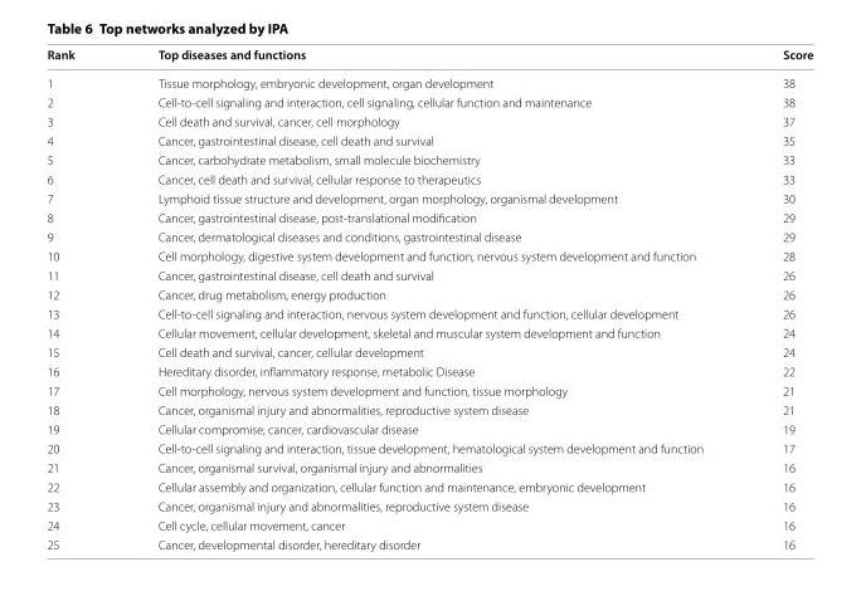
<table><thead><tr><td>Rank</td><td>Top diseases and functions</td><td>Score</td></tr></thead><tbody><tr><td>1</td><td>Tissue morphology, embryonic development, organ development</td><td>38</td></tr><tr><td>2</td><td>Cell‑to‑cell signaling and interaction, cell signaling, cellular function and maintenance</td><td>38</td></tr><tr><td>3</td><td>Cell death and survival, cancer, cell morphology</td><td>37</td></tr><tr><td>4</td><td>Cancer, gastrointestinal disease, cell death and survival</td><td>35</td></tr><tr><td>5</td><td>Cancer, carbohydrate metabolism, small molecule biochemistry</td><td>33</td></tr><tr><td>6</td><td>Cancer, cell death and survival, cellular response to therapeutics</td><td>33</td></tr><tr><td>7</td><td>Lymphoid tissue structure and development, organ morphology, organismal development</td><td>30</td></tr><tr><td>8</td><td>Cancer, gastrointestinal disease, post‑translational modification</td><td>29</td></tr><tr><td>9</td><td>Cancer, dermatological diseases and conditions, gastrointestinal disease</td><td>29</td></tr><tr><td>10</td><td>Cell morphology, digestive system development and function, nervous system development and function</td><td>28</td></tr><tr><td>11</td><td>Cancer, gastrointestinal disease, cell death and survival</td><td>26</td></tr><tr><td>12</td><td>Cancer, drug metabolism, energy production</td><td>26</td></tr><tr><td>13</td><td>Cell‑to‑cell signaling and interaction, nervous system development and function, cellular development</td><td>26</td></tr><tr><td>14</td><td>Cellular movement, cellular development, skeletal and muscular system development and function</td><td>24</td></tr><tr><td>15</td><td>Cell death and survival, cancer, cellular development</td><td>24</td></tr><tr><td>16</td><td>Hereditary disorder, inflammatory response, metabolic Disease</td><td>22</td></tr><tr><td>17</td><td>Cell morphology, nervous system development and function, tissue morphology</td><td>21</td></tr><tr><td>18</td><td>Cancer, organismal injury and abnormalities, reproductive system disease</td><td>21</td></tr><tr><td>19</td><td>Cellular compromise, cancer, cardiovascular disease</td><td>19</td></tr><tr><td>20</td><td>Cell‑to‑cell signaling and interaction, tissue development, hematological system development and function</td><td>17</td></tr><tr><td>21</td><td>Cancer, organismal survival, organismal injury and abnormalities</td><td>16</td></tr><tr><td>22</td><td>Cellular assembly and organization, cellular function and maintenance, embryonic development</td><td>16</td></tr><tr><td>23</td><td>Cancer, organismal injury and abnormalities, reproductive system disease</td><td>16</td></tr><tr><td>24</td><td>Cell cycle, cellular movement, cancer</td><td>16</td></tr><tr><td>25</td><td>Cancer, developmental disorder, hereditary disorder</td><td>16</td></tr></tbody></table>